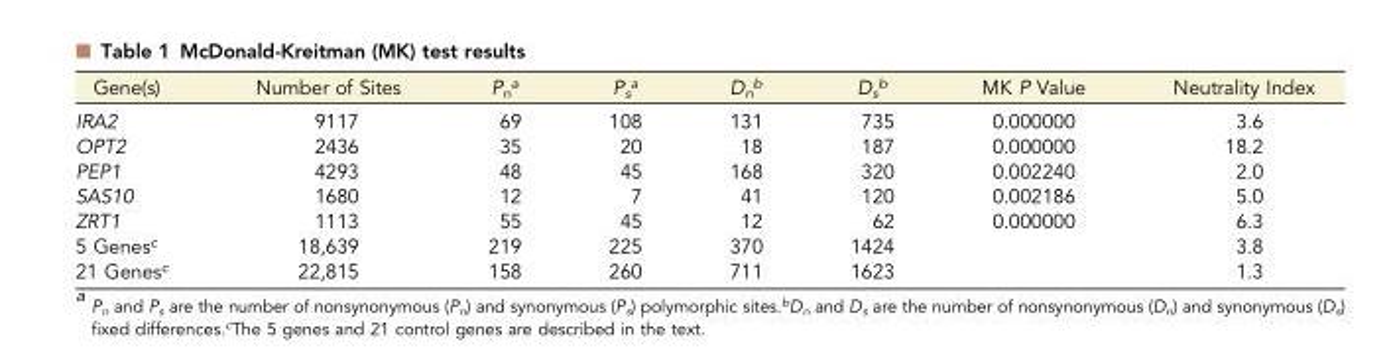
<table><thead><tr><td>Gene(s)</td><td>Number of Sites</td><td>P<sub>n</sub><sup>a</sup></td><td>P<sub>s</sub><sup>a</sup></td><td>D<sub>n</sub><sup>b</sup></td><td>D<sub>s</sub><sup>b</sup></td><td>MK P Value</td><td>Neutrality Index</td></tr></thead><tbody><tr><td>IRA2</td><td>9117</td><td>69</td><td>108</td><td>131</td><td>735</td><td>0.000000</td><td>3.6</td></tr><tr><td>OPT2</td><td>2436</td><td>35</td><td>20</td><td>18</td><td>187</td><td>0.000000</td><td>18.2</td></tr><tr><td>PEP1</td><td>4293</td><td>48</td><td>45</td><td>168</td><td>320</td><td>0.002240</td><td>2.0</td></tr><tr><td>SAS10</td><td>1680</td><td>12</td><td>7</td><td>41</td><td>120</td><td>0.002186</td><td>5.0</td></tr><tr><td>ZRT1</td><td>1113</td><td>55</td><td>45</td><td>12</td><td>62</td><td>0.000000</td><td>6.3</td></tr><tr><td>5 Genes<sup>c</sup></td><td>18,639</td><td>219</td><td>225</td><td>370</td><td>1424</td><td></td><td>3.8</td></tr><tr><td>21 Genes<sup>c</sup></td><td>22,815</td><td>158</td><td>260</td><td>711</td><td>1623</td><td></td><td>1.3</td></tr></tbody></table>